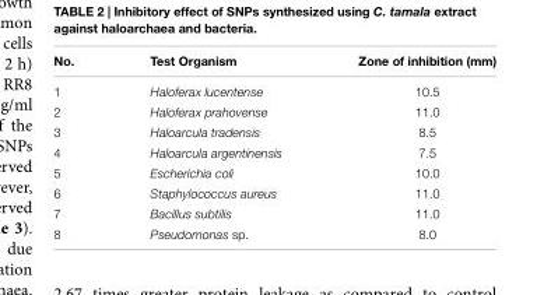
<table><thead><tr><td>No.</td><td>Test Organism</td><td>Zone of inhibition (mm)</td></tr></thead><tbody><tr><td>1</td><td>Haloferax lucentense</td><td>10.5</td></tr><tr><td>2</td><td>Haloferax prahovense</td><td>11.0</td></tr><tr><td>3</td><td>Haloarcula tradensis</td><td>8.5</td></tr><tr><td>4</td><td>Haloarcula argentinensis</td><td>7.5</td></tr><tr><td>5</td><td>Escherichia coli</td><td>10.0</td></tr><tr><td>6</td><td>Staphylococcus aureus</td><td>11.0</td></tr><tr><td>7</td><td>Bacillus subtilis</td><td>11.0</td></tr><tr><td>8</td><td>Pseudomonas sp.</td><td>8.0</td></tr></tbody></table>